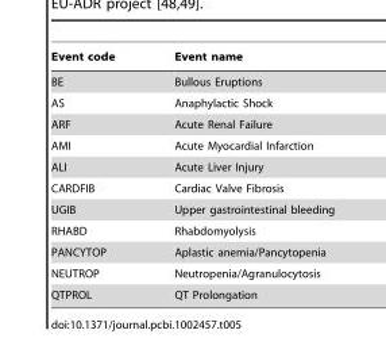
<table><thead><tr><td>Event code</td><td>Event name</td></tr></thead><tbody><tr><td>BE</td><td>Bullous Eruptions</td></tr><tr><td>AS</td><td>Anaphylactic Shock</td></tr><tr><td>ARF</td><td>Acute Renal Failure</td></tr><tr><td>AMI</td><td>Acute Myocardial Infarction</td></tr><tr><td>ALI</td><td>Acute Liver Injury</td></tr><tr><td>CARDFIB</td><td>Cardiac Valve Fibrosis</td></tr><tr><td>UGIB</td><td>Upper gastrointestinal bleeding</td></tr><tr><td>RHABD</td><td>Rhabdomyolysis</td></tr><tr><td>PANCYTOP</td><td>Aplastic anemia/Pancytopenia</td></tr><tr><td>NEUTROP</td><td>Neutropenia/Agranulocytosis</td></tr><tr><td>QTPROL</td><td>QT Prolongation</td></tr></tbody></table>